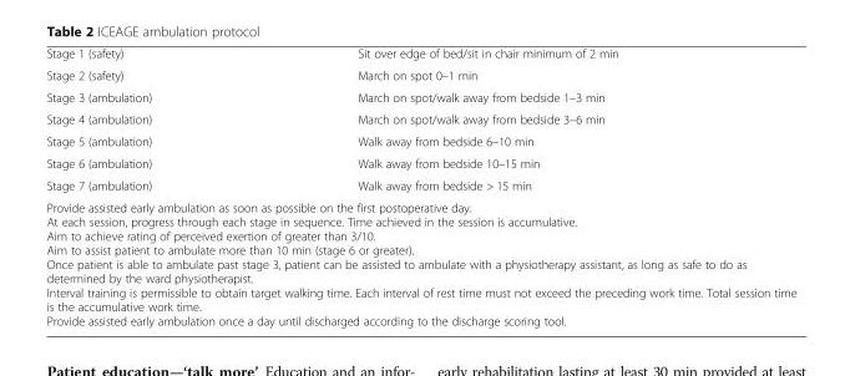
<table><tbody><tr><td>Stage 1 (safety)</td><td>Sit over edge of bed/sit in chair minimum of 2 min</td></tr><tr><td>Stage 2 (safety)</td><td>March on spot 0–1 min</td></tr><tr><td>Stage 3 (ambulation)</td><td>March on spot/walk away from bedside 1–3 min</td></tr><tr><td>Stage 4 (ambulation)</td><td>March on spot/walk away from bedside 3–6 min</td></tr><tr><td>Stage 5 (ambulation)</td><td>Walk away from bedside 6–10 min</td></tr><tr><td>Stage 6 (ambulation)</td><td>Walk away from bedside 10–15 min</td></tr><tr><td>Stage 7 (ambulation)</td><td>Walk away from bedside &gt; 15 min</td></tr><tr><td colspan="2">Provide assisted early ambulation as soon as possible on the first postoperative day. At each session, progress through each stage in sequence. Time achieved in the session is accumulative. Aim to achieve rating of perceived exertion of greater than 3/10. Aim to assist patient to ambulate more than 10 min (stage 6 or greater). Once patient is able to ambulate past stage 3, patient can be assisted to ambulate with a physiotherapy assistant, as long as safe to do as determined by the ward physiotherapist. Interval training is permissible to obtain target walking time. Each interval of rest time must not exceed the preceding work time. Total session time is the accumulative work time. Provide assisted early ambulation once a day until discharged according to the discharge scoring tool.</td></tr></tbody></table>